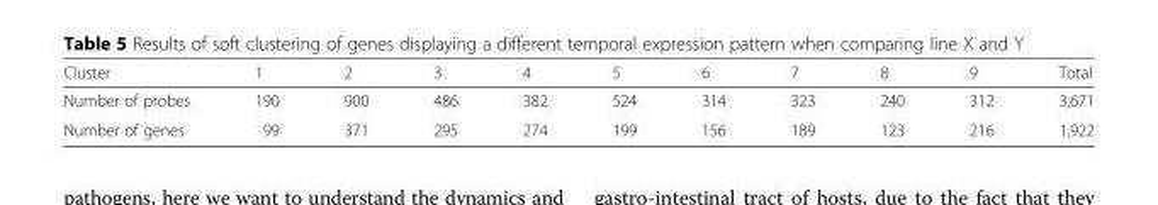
<table><thead><tr><td>Cluster</td><td>1</td><td>2</td><td>3</td><td>4</td><td>5</td><td>6</td><td>7</td><td>8</td><td>9</td><td>Total</td></tr></thead><tbody><tr><td>Number of probes</td><td>190</td><td>900</td><td>486</td><td>382</td><td>524</td><td>314</td><td>323</td><td>240</td><td>312</td><td>3,671</td></tr><tr><td>Number of genes</td><td>99</td><td>371</td><td>295</td><td>274</td><td>199</td><td>156</td><td>189</td><td>123</td><td>216</td><td>1,922</td></tr></tbody></table>